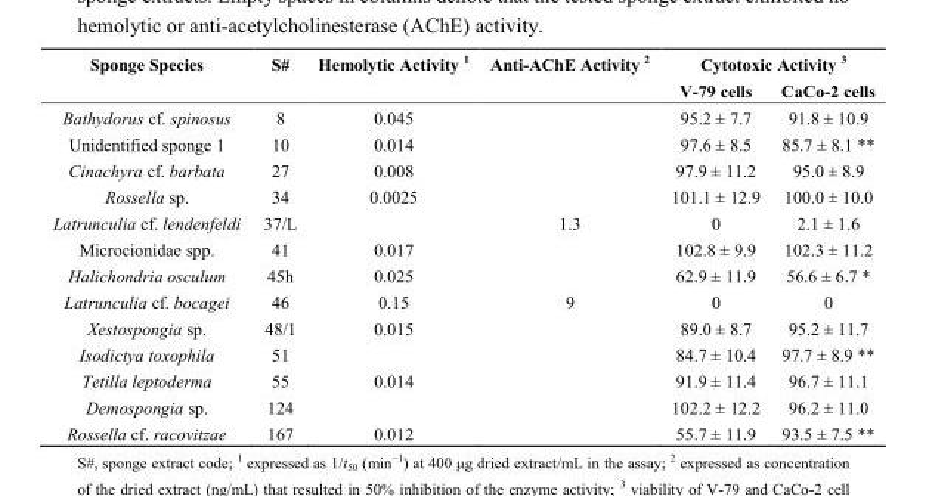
<table><thead><tr><td rowspan="2">Sponge Species</td><td rowspan="2">S#</td><td rowspan="2">Hemolytic Activity <sup>1</sup></td><td rowspan="2">Anti-AChE Activity <sup>2</sup></td><td colspan="2">Cytotoxic Activity <sup>3</sup></td></tr><tr><td>V-79 cells</td><td>CaCo-2 cells</td></tr></thead><tbody><tr><td>Bathydorus cf. spinosus</td><td>8</td><td>0.045</td><td></td><td>95.2 ± 7.7</td><td>91.8 ± 10.9</td></tr><tr><td>Unidentified sponge 1</td><td>10</td><td>0.014</td><td></td><td>97.6 ± 8.5</td><td>85.7 ± 8.1 **</td></tr><tr><td>Cinachyra cf. barbata</td><td>27</td><td>0.008</td><td></td><td>97.9 ± 11.2</td><td>95.0 ± 8.9</td></tr><tr><td>Rossella sp.</td><td>34</td><td>0.0025</td><td></td><td>101.1 ± 12.9</td><td>100.0 ± 10.0</td></tr><tr><td>Latrunculia cf. lendenfeldi</td><td>37/L</td><td></td><td>1.3</td><td>0</td><td>2.1 ± 1.6</td></tr><tr><td>Microcionidae spp.</td><td>41</td><td>0.017</td><td></td><td>102.8 ± 9.9</td><td>102.3 ± 11.2</td></tr><tr><td>Halichondria osculum</td><td>45h</td><td>0.025</td><td></td><td>62.9 ± 11.9</td><td>56.6 ± 6.7 *</td></tr><tr><td>Latrunculia cf. bocagei</td><td>46</td><td>0.15</td><td>9</td><td>0</td><td>0</td></tr><tr><td>Xestospongia sp.</td><td>48/1</td><td>0.015</td><td></td><td>89.0 ± 8.7</td><td>95.2 ± 11.7</td></tr><tr><td>Isodictya toxophila</td><td>51</td><td></td><td></td><td>84.7 ± 10.4</td><td>97.7 ± 8.9 **</td></tr><tr><td>Tetilla leptoderma</td><td>55</td><td>0.014</td><td></td><td>91.9 ± 11.4</td><td>96.7 ± 11.1</td></tr><tr><td>Demospongia sp.</td><td>124</td><td></td><td></td><td>102.2 ± 12.2</td><td>96.2 ± 11.0</td></tr><tr><td>Rossella cf. racovitzae</td><td>167</td><td>0.012</td><td></td><td>55.7 ± 11.9</td><td>93.5 ± 7.5 **</td></tr></tbody></table>